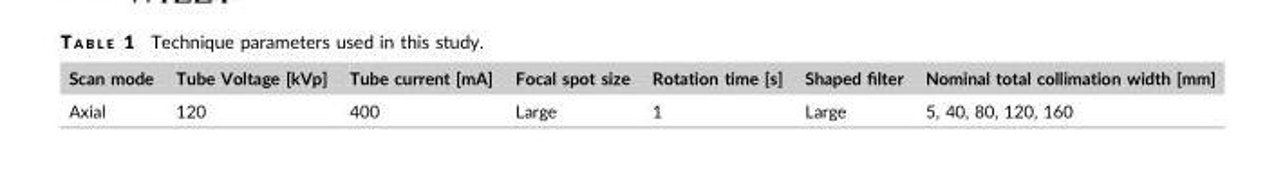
<table><thead><tr><td>Scan mode</td><td>Tube Voltage [kVp]</td><td>Tube current [mA]</td><td>Focal spot size</td><td>Rotation time [s]</td><td>Shaped filter</td><td>Nominal total collimation width [mm]</td></tr></thead><tbody><tr><td>Axial</td><td>120</td><td>400</td><td>Large</td><td>1</td><td>Large</td><td>5, 40, 80, 120, 160</td></tr></tbody></table>